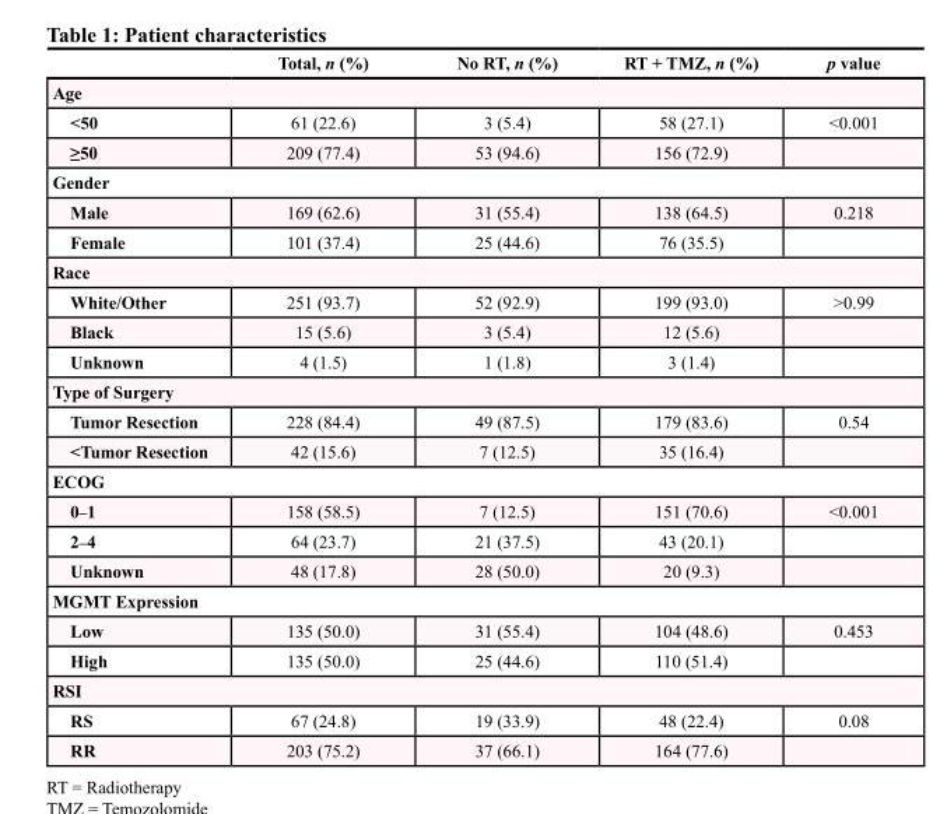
<table><thead><tr><td></td><td>Total, n (%)</td><td>No RT, n (%)</td><td>RT + TMZ, n (%)</td><td>p value</td></tr></thead><tbody><tr><td colspan="5">Age</td></tr><tr><td>&lt;50</td><td>61 (22.6)</td><td>3 (5.4)</td><td>58 (27.1)</td><td>&lt;0.001</td></tr><tr><td>≥50</td><td>209 (77.4)</td><td>53 (94.6)</td><td>156 (72.9)</td><td></td></tr><tr><td colspan="5">Gender</td></tr><tr><td>Male</td><td>169 (62.6)</td><td>31 (55.4)</td><td>138 (64.5)</td><td>0.218</td></tr><tr><td>Female</td><td>101 (37.4)</td><td>25 (44.6)</td><td>76 (35.5)</td><td></td></tr><tr><td colspan="5">Race</td></tr><tr><td>White/Other</td><td>251 (93.7)</td><td>52 (92.9)</td><td>199 (93.0)</td><td>&gt;0.99</td></tr><tr><td>Black</td><td>15 (5.6)</td><td>3 (5.4)</td><td>12 (5.6)</td><td></td></tr><tr><td>Unknown</td><td>4 (1.5)</td><td>1 (1.8)</td><td>3 (1.4)</td><td></td></tr><tr><td colspan="5">Type of Surgery</td></tr><tr><td>Tumor Resection</td><td>228 (84.4)</td><td>49 (87.5)</td><td>179 (83.6)</td><td>0.54</td></tr><tr><td>&lt;Tumor Resection</td><td>42 (15.6)</td><td>7 (12.5)</td><td>35 (16.4)</td><td></td></tr><tr><td colspan="5">ECOG</td></tr><tr><td>0–1</td><td>158 (58.5)</td><td>7 (12.5)</td><td>151 (70.6)</td><td>&lt;0.001</td></tr><tr><td>2–4</td><td>64 (23.7)</td><td>21 (37.5)</td><td>43 (20.1)</td><td></td></tr><tr><td>Unknown</td><td>48 (17.8)</td><td>28 (50.0)</td><td>20 (9.3)</td><td></td></tr><tr><td colspan="5">MGMT Expression</td></tr><tr><td>Low</td><td>135 (50.0)</td><td>31 (55.4)</td><td>104 (48.6)</td><td>0.453</td></tr><tr><td>High</td><td>135 (50.0)</td><td>25 (44.6)</td><td>110 (51.4)</td><td></td></tr><tr><td colspan="5">RSI</td></tr><tr><td>RS</td><td>67 (24.8)</td><td>19 (33.9)</td><td>48 (22.4)</td><td>0.08</td></tr><tr><td>RR</td><td>203 (75.2)</td><td>37 (66.1)</td><td>164 (77.6)</td><td></td></tr></tbody></table>